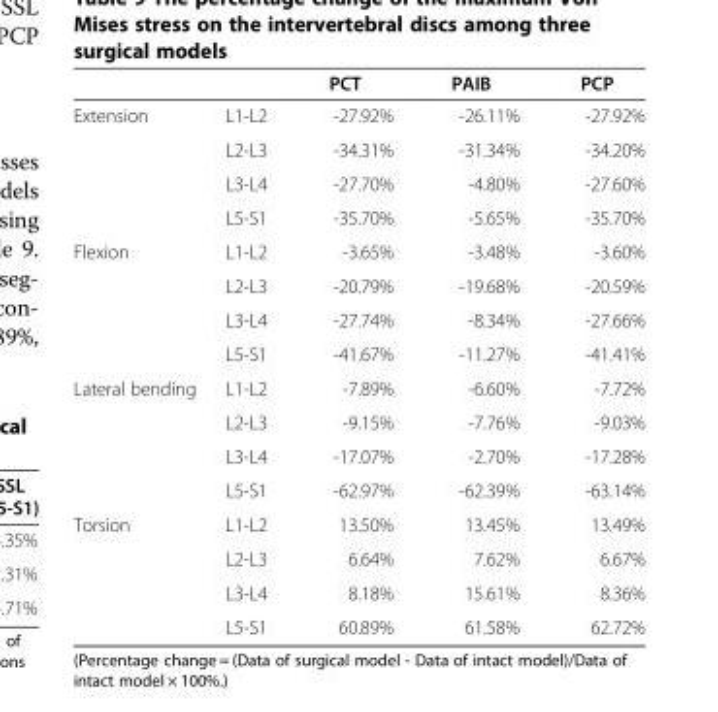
<table><thead><tr><td></td><td></td><td>PCT</td><td>PAIB</td><td>PCP</td></tr></thead><tbody><tr><td rowspan="4">Extension</td><td>L1-L2</td><td>-27.92%</td><td>-26.11%</td><td>-27.92%</td></tr><tr><td>L2-L3</td><td>-34.31%</td><td>-31.34%</td><td>-34.20%</td></tr><tr><td>L3-L4</td><td>-27.70%</td><td>-4.80%</td><td>-27.60%</td></tr><tr><td>L5-S1</td><td>-35.70%</td><td>-5.65%</td><td>-35.70%</td></tr><tr><td rowspan="4">Flexion</td><td>L1-L2</td><td>-3.65%</td><td>-3.48%</td><td>-3.60%</td></tr><tr><td>L2-L3</td><td>-20.79%</td><td>-19.68%</td><td>-20.59%</td></tr><tr><td>L3-L4</td><td>-27.74%</td><td>-8.34%</td><td>-27.66%</td></tr><tr><td>L5-S1</td><td>-41.67%</td><td>-11.27%</td><td>-41.41%</td></tr><tr><td rowspan="4">Lateral bending</td><td>L1-L2</td><td>-7.89%</td><td>-6.60%</td><td>-7.72%</td></tr><tr><td>L2-L3</td><td>-9.15%</td><td>-7.76%</td><td>-9.03%</td></tr><tr><td>L3-L4</td><td>-17.07%</td><td>-2.70%</td><td>-17.28%</td></tr><tr><td>L5-S1</td><td>-62.97%</td><td>-62.39%</td><td>-63.14%</td></tr><tr><td rowspan="4">Torsion</td><td>L1-L2</td><td>13.50%</td><td>13.45%</td><td>13.49%</td></tr><tr><td>L2-L3</td><td>6.64%</td><td>7.62%</td><td>6.67%</td></tr><tr><td>L3-L4</td><td>8.18%</td><td>15.61%</td><td>8.36%</td></tr><tr><td>L5-S1</td><td>60.89%</td><td>61.58%</td><td>62.72%</td></tr></tbody></table>